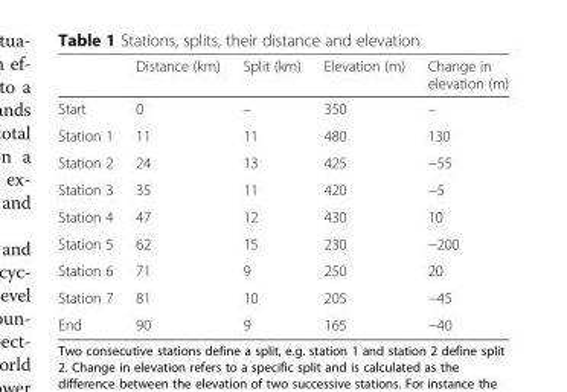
<table><thead><tr><td></td><td>Distance (km)</td><td>Split (km)</td><td>Elevation (m)</td><td>Change in elevation (m)</td></tr></thead><tbody><tr><td>Start</td><td>0</td><td>–</td><td>350</td><td>–</td></tr><tr><td>Station 1</td><td>11</td><td>11</td><td>480</td><td>130</td></tr><tr><td>Station 2</td><td>24</td><td>13</td><td>425</td><td>−55</td></tr><tr><td>Station 3</td><td>35</td><td>11</td><td>420</td><td>−5</td></tr><tr><td>Station 4</td><td>47</td><td>12</td><td>430</td><td>10</td></tr><tr><td>Station 5</td><td>62</td><td>15</td><td>230</td><td>−200</td></tr><tr><td>Station 6</td><td>71</td><td>9</td><td>250</td><td>20</td></tr><tr><td>Station 7</td><td>81</td><td>10</td><td>205</td><td>−45</td></tr><tr><td>End</td><td>90</td><td>9</td><td>165</td><td>−40</td></tr></tbody></table>